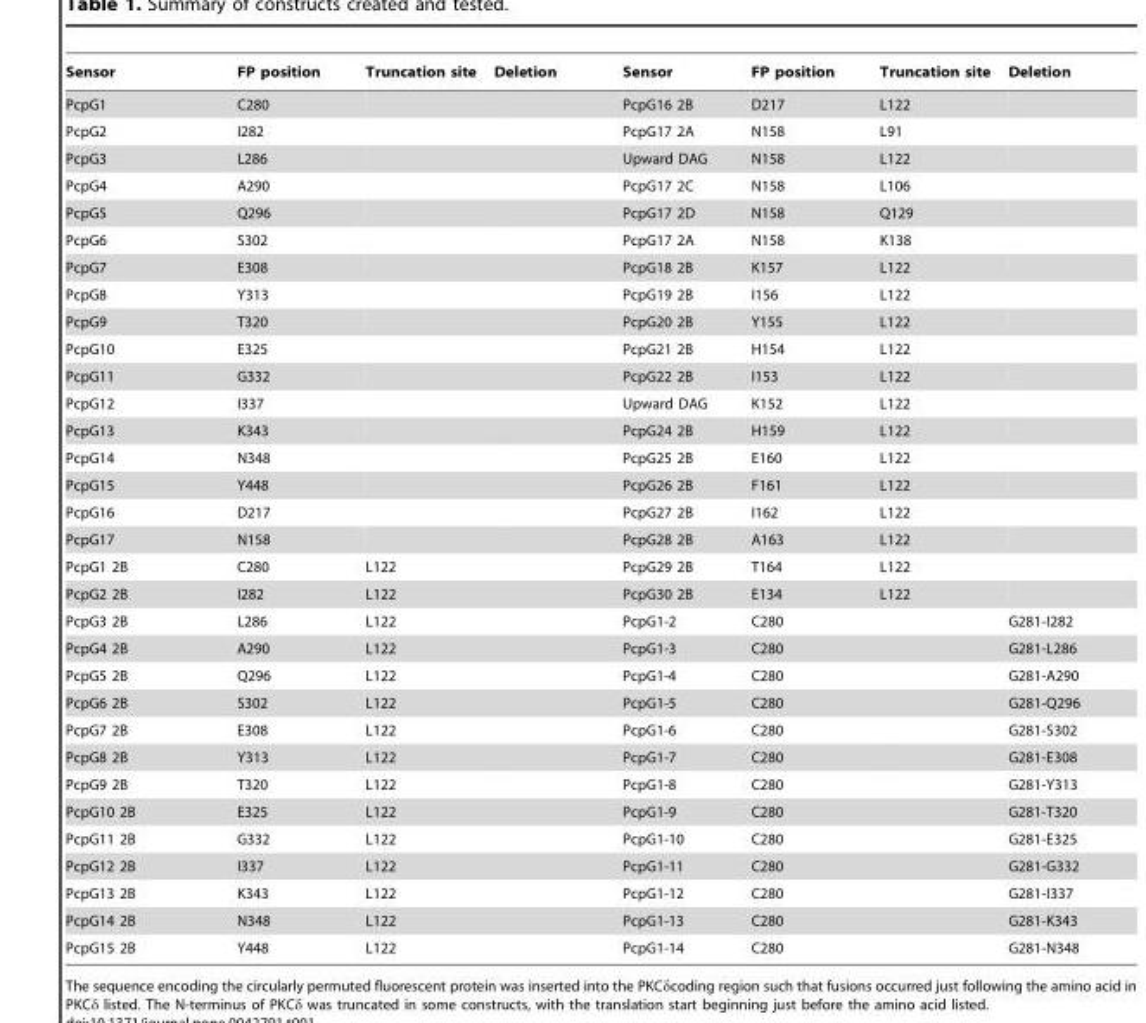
<table><thead><tr><td>Sensor</td><td>FP position</td><td>Truncation site</td><td>Deletion</td><td>Sensor</td><td>FP position</td><td>Truncation site</td><td>Deletion</td></tr></thead><tbody><tr><td>PcpG1</td><td>C280</td><td></td><td></td><td>PcpG16 2B</td><td>D217</td><td>L122</td><td></td></tr><tr><td>PcpG2</td><td>I282</td><td></td><td></td><td>PcpG17 2A</td><td>N158</td><td>L91</td><td></td></tr><tr><td>PcpG3</td><td>L286</td><td></td><td></td><td>Upward DAG</td><td>N158</td><td>L122</td><td></td></tr><tr><td>PcpG4</td><td>A290</td><td></td><td></td><td>PcpG17 2C</td><td>N158</td><td>L106</td><td></td></tr><tr><td>PcpG5</td><td>Q296</td><td></td><td></td><td>PcpG17 2D</td><td>N158</td><td>Q129</td><td></td></tr><tr><td>PcpG6</td><td>S302</td><td></td><td></td><td>PcpG17 2A</td><td>N158</td><td>K138</td><td></td></tr><tr><td>PcpG7</td><td>E308</td><td></td><td></td><td>PcpG18 2B</td><td>K157</td><td>L122</td><td></td></tr><tr><td>PcpG8</td><td>Y313</td><td></td><td></td><td>PcpG19 2B</td><td>I156</td><td>L122</td><td></td></tr><tr><td>PcpG9</td><td>T320</td><td></td><td></td><td>PcpG20 2B</td><td>Y155</td><td>L122</td><td></td></tr><tr><td>PcpG10</td><td>E325</td><td></td><td></td><td>PcpG21 2B</td><td>H154</td><td>L122</td><td></td></tr><tr><td>PcpG11</td><td>G332</td><td></td><td></td><td>PcpG22 2B</td><td>I153</td><td>L122</td><td></td></tr><tr><td>PcpG12</td><td>I337</td><td></td><td></td><td>Upward DAG</td><td>K152</td><td>L122</td><td></td></tr><tr><td>PcpG13</td><td>K343</td><td></td><td></td><td>PcpG24 2B</td><td>H159</td><td>L122</td><td></td></tr><tr><td>PcpG14</td><td>N348</td><td></td><td></td><td>PcpG25 2B</td><td>E160</td><td>L122</td><td></td></tr><tr><td>PcpG15</td><td>Y448</td><td></td><td></td><td>PcpG26 2B</td><td>F161</td><td>L122</td><td></td></tr><tr><td>PcpG16</td><td>D217</td><td></td><td></td><td>PcpG27 2B</td><td>I162</td><td>L122</td><td></td></tr><tr><td>PcpG17</td><td>N158</td><td></td><td></td><td>PcpG28 2B</td><td>A163</td><td>L122</td><td></td></tr><tr><td>PcpG1 2B</td><td>C280</td><td>L122</td><td></td><td>PcpG29 2B</td><td>T164</td><td>L122</td><td></td></tr><tr><td>PcpG2 2B</td><td>I282</td><td>L122</td><td></td><td>PcpG30 2B</td><td>E134</td><td>L122</td><td></td></tr><tr><td>PcpG3 2B</td><td>L286</td><td>L122</td><td></td><td>PcpG1-2</td><td>C280</td><td></td><td>G281-I282</td></tr><tr><td>PcpG4 2B</td><td>A290</td><td>L122</td><td></td><td>PcpG1-3</td><td>C280</td><td></td><td>G281-L286</td></tr><tr><td>PcpG5 2B</td><td>Q296</td><td>L122</td><td></td><td>PcpG1-4</td><td>C280</td><td></td><td>G281-A290</td></tr><tr><td>PcpG6 2B</td><td>S302</td><td>L122</td><td></td><td>PcpG1-5</td><td>C280</td><td></td><td>G281-Q296</td></tr><tr><td>PcpG7 2B</td><td>E308</td><td>L122</td><td></td><td>PcpG1-6</td><td>C280</td><td></td><td>G281-S302</td></tr><tr><td>PcpG8 2B</td><td>Y313</td><td>L122</td><td></td><td>PcpG1-7</td><td>C280</td><td></td><td>G281-E308</td></tr><tr><td>PcpG9 2B</td><td>T320</td><td>L122</td><td></td><td>PcpG1-8</td><td>C280</td><td></td><td>G281-Y313</td></tr><tr><td>PcpG10 2B</td><td>E325</td><td>L122</td><td></td><td>PcpG1-9</td><td>C280</td><td></td><td>G281-T320</td></tr><tr><td>PcpG11 2B</td><td>G332</td><td>L122</td><td></td><td>PcpG1-10</td><td>C280</td><td></td><td>G281-E325</td></tr><tr><td>PcpG12 2B</td><td>I337</td><td>L122</td><td></td><td>PcpG1-11</td><td>C280</td><td></td><td>G281-G332</td></tr><tr><td>PcpG13 2B</td><td>K343</td><td>L122</td><td></td><td>PcpG1-12</td><td>C280</td><td></td><td>G281-I337</td></tr><tr><td>PcpG14 2B</td><td>N348</td><td>L122</td><td></td><td>PcpG1-13</td><td>C280</td><td></td><td>G281-K343</td></tr><tr><td>PcpG15 2B</td><td>Y448</td><td>L122</td><td></td><td>PcpG1-14</td><td>C280</td><td></td><td>G281-N348</td></tr></tbody></table>